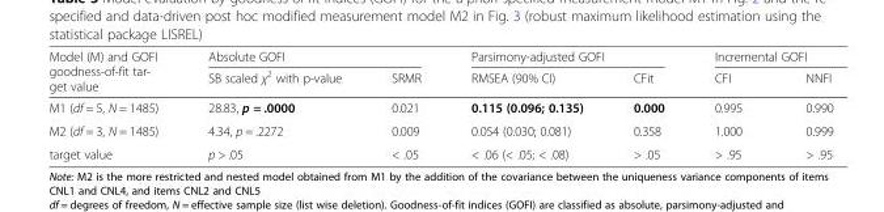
<table><thead><tr><td rowspan="2">Model (M) and GOFI goodness-of-fit tar- get value</td><td colspan="2">Absolute GOFI</td><td colspan="2">Parsimony-adjusted GOFI</td><td colspan="2">Incremental GOFI</td></tr><tr><td>SB scaled χ<sup>2</sup> with p-value</td><td>SRMR</td><td>RMSEA (90% CI)</td><td>CFit</td><td>CFI</td><td>NNFI</td></tr></thead><tbody><tr><td>M1 (df = 5, N = 1485)</td><td>28.83, p = .0000</td><td>0.021</td><td>0.115 (0.096; 0.135)</td><td>0.000</td><td>0.995</td><td>0.990</td></tr><tr><td>M2 (df = 3, N = 1485)</td><td>4.34, p = .2272</td><td>0.009</td><td>0.054 (0.030; 0.081)</td><td>0.358</td><td>1.000</td><td>0.999</td></tr><tr><td>target value</td><td>p &gt; .05</td><td>&lt; .05</td><td>&lt; .06 (&lt; .05; &lt; .08)</td><td>&gt; .05</td><td>&gt; .95</td><td>&gt; .95</td></tr></tbody></table>